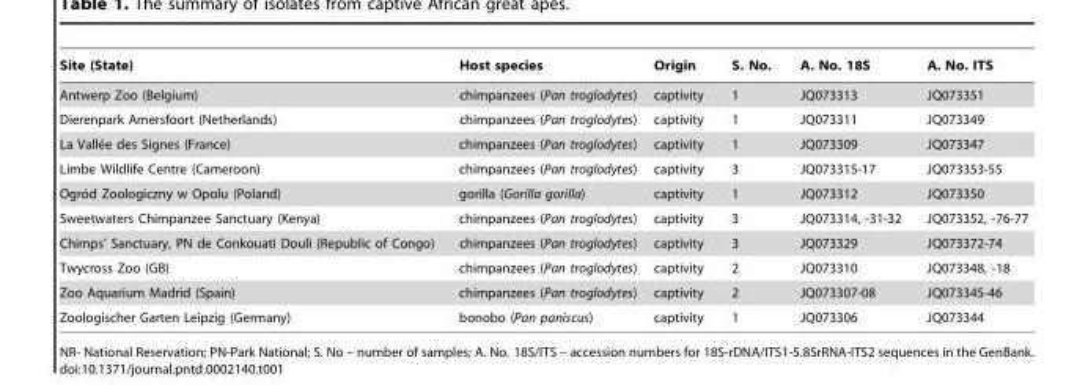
<table><thead><tr><td>Site (State)</td><td>Host species</td><td>Origin</td><td>S. No.</td><td>A. No. 18S</td><td>A. No. ITS</td></tr></thead><tbody><tr><td>Antwerp Zoo (Belgium)</td><td>chimpanzees (Pan troglodytes)</td><td>captivity</td><td>1</td><td>JQ073313</td><td>JQ073351</td></tr><tr><td>Dierenpark Amersfoort (Netherlands)</td><td>chimpanzees (Pan troglodytes)</td><td>captivity</td><td>1</td><td>JQ073311</td><td>JQ073349</td></tr><tr><td>La Valle´e des Signes (France)</td><td>chimpanzees (Pan troglodytes)</td><td>captivity</td><td>1</td><td>JQ073309</td><td>JQ073347</td></tr><tr><td>Limbe Wildlife Centre (Cameroon)</td><td>chimpanzees (Pan troglodytes)</td><td>captivity</td><td>3</td><td>JQ073315-17</td><td>JQ073353-55</td></tr><tr><td>Ogro´d Zoologiczny w Opolu (Poland)</td><td>gorilla (Gorilla gorilla)</td><td>captivity</td><td>1</td><td>JQ073312</td><td>JQ073350</td></tr><tr><td>Sweetwaters Chimpanzee Sanctuary (Kenya)</td><td>chimpanzees (Pan troglodytes)</td><td>captivity</td><td>3</td><td>JQ073314, -31-32</td><td>JQ073352, -76-77</td></tr><tr><td>Chimps’ Sanctuary, PN de Conkouati Douli (Republic of Congo)</td><td>chimpanzees (Pan troglodytes)</td><td>captivity</td><td>3</td><td>JQ073329</td><td>JQ073372-74</td></tr><tr><td>Twycross Zoo (GB)</td><td>chimpanzees (Pan troglodytes)</td><td>captivity</td><td>2</td><td>JQ073310</td><td>JQ073348, -18</td></tr><tr><td>Zoo Aquarium Madrid (Spain)</td><td>chimpanzees (Pan troglodytes)</td><td>captivity</td><td>2</td><td>JQ073307-08</td><td>JQ073345-46</td></tr><tr><td>Zoologischer Garten Leipzig (Germany)</td><td>bonobo (Pan paniscus)</td><td>captivity</td><td>1</td><td>JQ073306</td><td>JQ073344</td></tr></tbody></table>